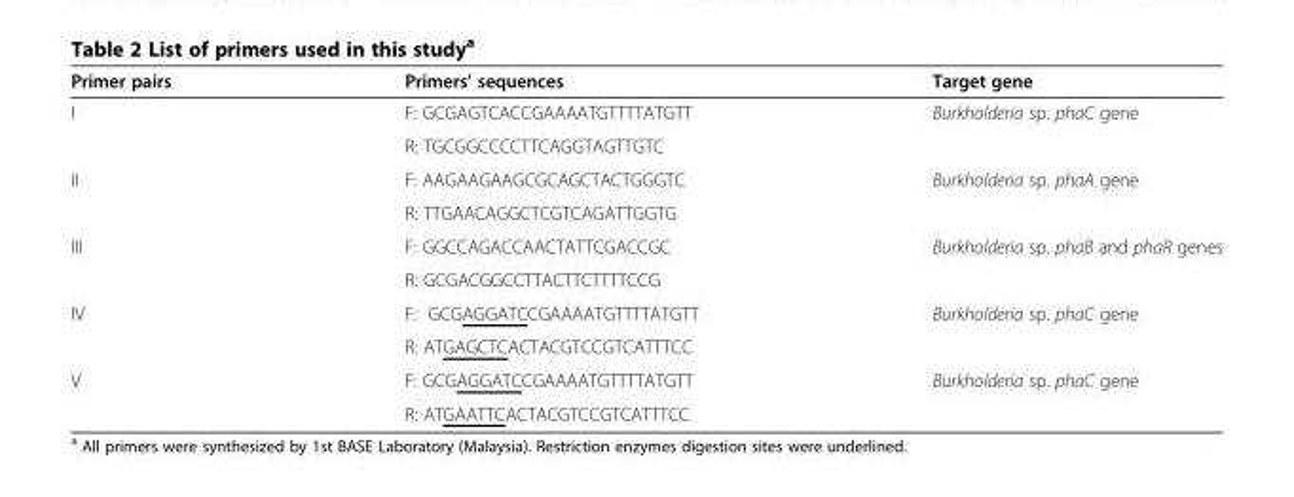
<table><thead><tr><td>Primer pairs</td><td>Primers’ sequences</td><td>Target gene</td></tr></thead><tbody><tr><td rowspan="2">І</td><td>F: GCGAGTCACCGAAAATGTTTTATGTT</td><td rowspan="2">Burkholderia sp. phaC gene</td></tr><tr><td>R: TGCGGCCCCTTCAGGTAGTTGTC</td></tr><tr><td rowspan="2">ІІ</td><td>F: AAGAAGAAGCGCAGCTACTGGGTC</td><td rowspan="2">Burkholderia sp. phaA gene</td></tr><tr><td>R: TTGAACAGGCTCGTCAGATTGGTG</td></tr><tr><td rowspan="2">ІІІ</td><td>F: GGCCAGACCAACTATTCGACCGC</td><td rowspan="2">Burkholderia sp. phaB and phaR genes</td></tr><tr><td>R: GCGACGGCCTTACTTCTTTTCCG</td></tr><tr><td rowspan="2">IV</td><td>F: GCGAGGATCCGAAAATGTTTTATGTT</td><td>Burkholderia sp. phaC gene</td></tr><tr><td>R: ATGAGCTCACTACGTCCGTCATTTCC</td><td></td></tr><tr><td rowspan="2">V</td><td>F: GCGAGGATCCGAAAATGTTTTATGTT</td><td rowspan="2">Burkholderia sp. phaC gene</td></tr><tr><td>R: ATGAATTCACTACGTCCGTCATTTCC</td></tr></tbody></table>